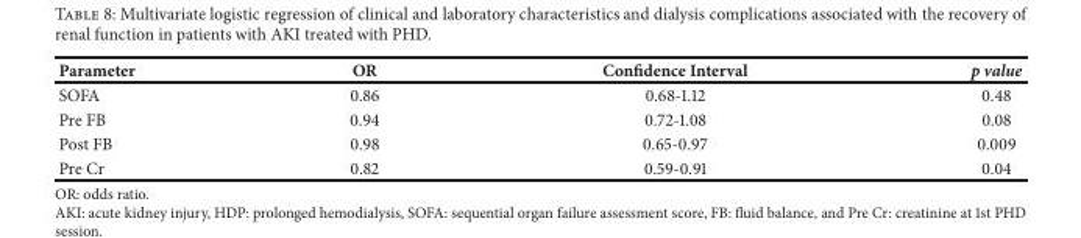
<table><thead><tr><td>Parameter</td><td>OR</td><td>Confidence Interval</td><td>p value</td></tr></thead><tbody><tr><td>SOFA</td><td>0.86</td><td>0.68-1.12</td><td>0.48</td></tr><tr><td>Pre FB</td><td>0.94</td><td>0.72-1.08</td><td>0.08</td></tr><tr><td>Post FB</td><td>0.98</td><td>0.65-0.97</td><td>0.009</td></tr><tr><td>Pre Cr</td><td>0.82</td><td>0.59-0.91</td><td>0.04</td></tr></tbody></table>